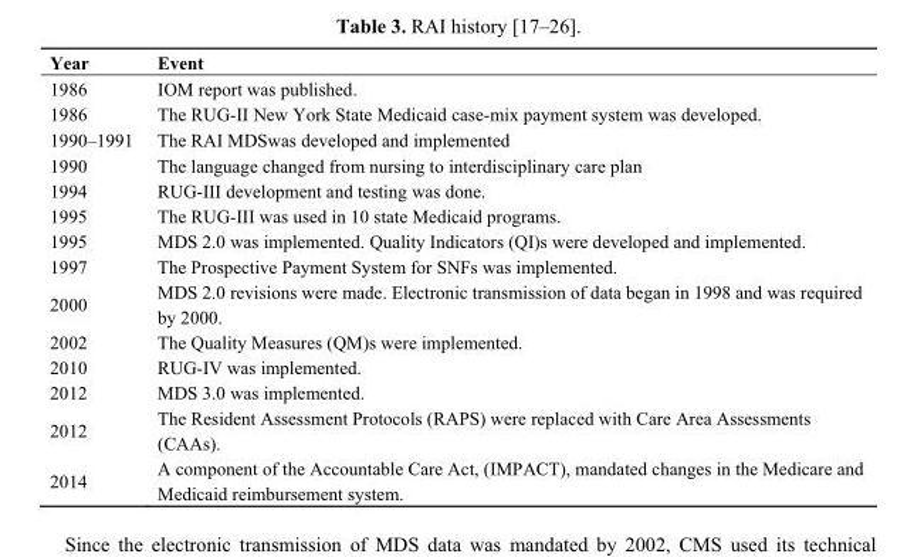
<table><thead><tr><td>Year</td><td>Event</td></tr></thead><tbody><tr><td>1986</td><td>IOM report was published.</td></tr><tr><td>1986</td><td>The RUG-II New York State Medicaid case-mix payment system was developed.</td></tr><tr><td>1990–1991</td><td>The RAI MDSwas developed and implemented</td></tr><tr><td>1990</td><td>The language changed from nursing to interdisciplinary care plan</td></tr><tr><td>1994</td><td>RUG-III development and testing was done.</td></tr><tr><td>1995</td><td>The RUG-III was used in 10 state Medicaid programs.</td></tr><tr><td>1995</td><td>MDS 2.0 was implemented. Quality Indicators (QI)s were developed and implemented.</td></tr><tr><td>1997</td><td>The Prospective Payment System for SNFs was implemented.</td></tr><tr><td>2000</td><td>MDS 2.0 revisions were made. Electronic transmission of data began in 1998 and was required by 2000.</td></tr><tr><td>2002</td><td>The Quality Measures (QM)s were implemented.</td></tr><tr><td>2010</td><td>RUG-IV was implemented.</td></tr><tr><td>2012</td><td>MDS 3.0 was implemented.</td></tr><tr><td>2012</td><td>The Resident Assessment Protocols (RAPS) were replaced with Care Area Assessments (CAAs).</td></tr><tr><td>2014</td><td>A component of the Accountable Care Act, (IMPACT), mandated changes in the Medicare and Medicaid reimbursement system.</td></tr></tbody></table>